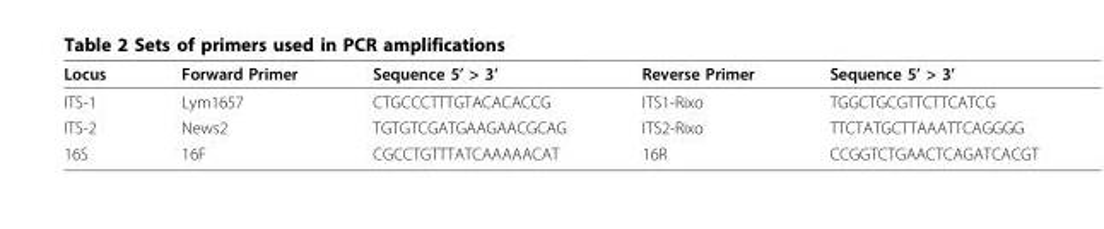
<table><thead><tr><td>Locus</td><td>Forward Primer</td><td>Sequence 5’ &gt; 3’</td><td>Reverse Primer</td><td>Sequence 5’ &gt; 3’</td></tr></thead><tbody><tr><td>ITS-1</td><td>Lym1657</td><td>CTGCCCTTTGTACACACCG</td><td>ITS1-Rixo</td><td>TGGCTGCGTTCTTCATCG</td></tr><tr><td>ITS-2</td><td>News2</td><td>TGTGTCGATGAAGAACGCAG</td><td>ITS2-Rixo</td><td>TTCTATGCTTAAATTCAGGGG</td></tr><tr><td>16S</td><td>16F</td><td>CGCCTGTTTATCAAAAACAT</td><td>16R</td><td>CCGGTCTGAACTCAGATCACGT</td></tr></tbody></table>